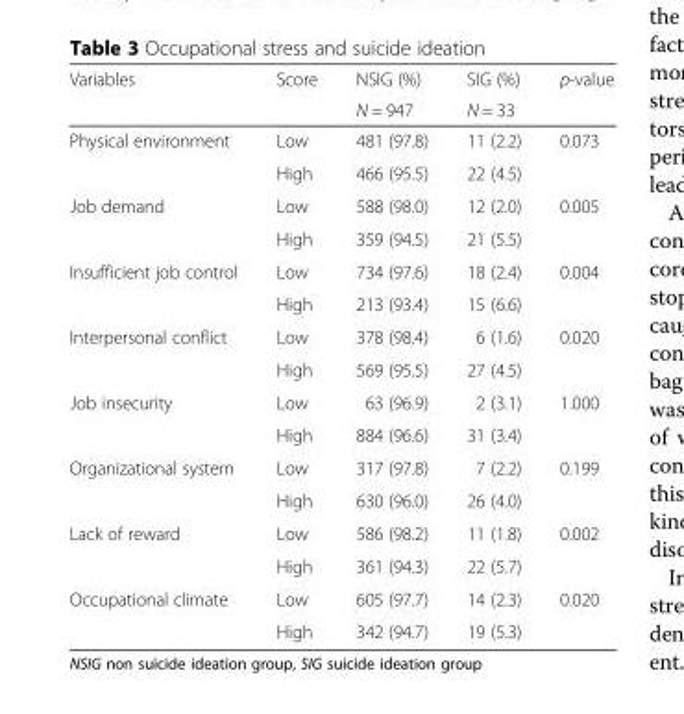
<table><thead><tr><td rowspan="2">Variables</td><td rowspan="2">Score</td><td rowspan="2">NSIG (%) N = 947</td><td rowspan="2">SIG (%) N = 33</td><td rowspan="2">p-value</td></tr><tr></tr></thead><tbody><tr><td rowspan="2">Physical environment</td><td>Low</td><td>481 (97.8)</td><td>11 (2.2)</td><td>0.073</td></tr><tr><td>High</td><td>466 (95.5)</td><td>22 (4.5)</td><td></td></tr><tr><td rowspan="2">Job demand</td><td>Low</td><td>588 (98.0)</td><td>12 (2.0)</td><td>0.005</td></tr><tr><td>High</td><td>359 (94.5)</td><td>21 (5.5)</td><td></td></tr><tr><td rowspan="2">Insufficient job control</td><td>Low</td><td>734 (97.6)</td><td>18 (2.4)</td><td>0.004</td></tr><tr><td>High</td><td>213 (93.4)</td><td>15 (6.6)</td><td></td></tr><tr><td rowspan="2">Interpersonal conflict</td><td>Low</td><td>378 (98.4)</td><td>6 (1.6)</td><td>0.020</td></tr><tr><td>High</td><td>569 (95.5)</td><td>27 (4.5)</td><td></td></tr><tr><td rowspan="2">Job insecurity</td><td>Low</td><td>63 (96.9)</td><td>2 (3.1)</td><td>1.000</td></tr><tr><td>High</td><td>884 (96.6)</td><td>31 (3.4)</td><td></td></tr><tr><td rowspan="2">Organizational system</td><td>Low</td><td>317 (97.8)</td><td>7 (2.2)</td><td>0.199</td></tr><tr><td>High</td><td>630 (96.0)</td><td>26 (4.0)</td><td></td></tr><tr><td rowspan="2">Lack of reward</td><td>Low</td><td>586 (98.2)</td><td>11 (1.8)</td><td>0.002</td></tr><tr><td>High</td><td>361 (94.3)</td><td>22 (5.7)</td><td></td></tr><tr><td rowspan="2">Occupational climate</td><td>Low</td><td>605 (97.7)</td><td>14 (2.3)</td><td>0.020</td></tr><tr><td>High</td><td>342 (94.7)</td><td>19 (5.3)</td><td></td></tr></tbody></table>